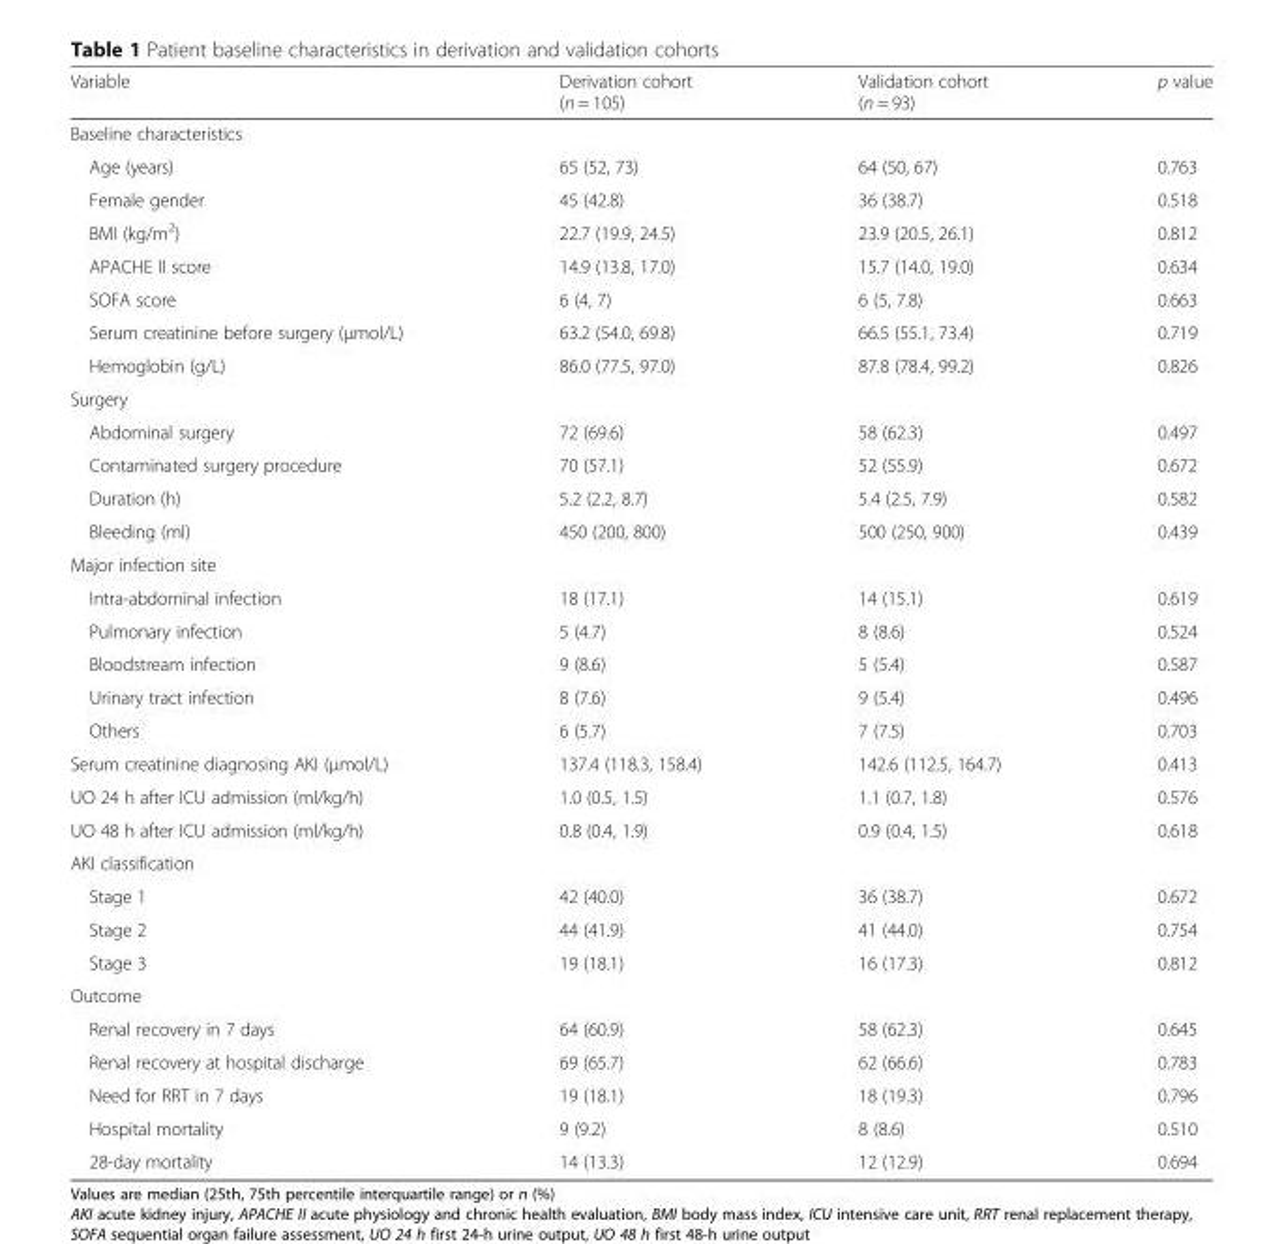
<table><thead><tr><td>Variable</td><td>Derivation cohort (n = 105)</td><td>Validation cohort (n = 93)</td><td>p value</td></tr></thead><tbody><tr><td colspan="4">Baseline characteristics</td></tr><tr><td>Age (years)</td><td>65 (52, 73)</td><td>64 (50, 67)</td><td>0.763</td></tr><tr><td>Female gender</td><td>45 (42.8)</td><td>36 (38.7)</td><td>0.518</td></tr><tr><td>BMI (kg/m<sup>2</sup>)</td><td>22.7 (19.9, 24.5)</td><td>23.9 (20.5, 26.1)</td><td>0.812</td></tr><tr><td>APACHE II score</td><td>14.9 (13.8, 17.0)</td><td>15.7 (14.0, 19.0)</td><td>0.634</td></tr><tr><td>SOFA score</td><td>6 (4, 7)</td><td>6 (5, 7.8)</td><td>0.663</td></tr><tr><td>Serum creatinine before surgery (μmol/L)</td><td>63.2 (54.0, 69.8)</td><td>66.5 (55.1, 73.4)</td><td>0.719</td></tr><tr><td>Hemoglobin (g/L)</td><td>86.0 (77.5, 97.0)</td><td>87.8 (78.4, 99.2)</td><td>0.826</td></tr><tr><td colspan="4">Surgery</td></tr><tr><td>Abdominal surgery</td><td>72 (69.6)</td><td>58 (62.3)</td><td>0.497</td></tr><tr><td>Contaminated surgery procedure</td><td>70 (57.1)</td><td>52 (55.9)</td><td>0.672</td></tr><tr><td>Duration (h)</td><td>5.2 (2.2, 8.7)</td><td>5.4 (2.5, 7.9)</td><td>0.582</td></tr><tr><td>Bleeding (ml)</td><td>450 (200, 800)</td><td>500 (250, 900)</td><td>0.439</td></tr><tr><td colspan="4">Major infection site</td></tr><tr><td>Intra-abdominal infection</td><td>18 (17.1)</td><td>14 (15.1)</td><td>0.619</td></tr><tr><td>Pulmonary infection</td><td>5 (4.7)</td><td>8 (8.6)</td><td>0.524</td></tr><tr><td>Bloodstream infection</td><td>9 (8.6)</td><td>5 (5.4)</td><td>0.587</td></tr><tr><td>Urinary tract infection</td><td>8 (7.6)</td><td>9 (5.4)</td><td>0.496</td></tr><tr><td>Others</td><td>6 (5.7)</td><td>7 (7.5)</td><td>0.703</td></tr><tr><td>Serum creatinine diagnosing AKI (μmol/L)</td><td>137.4 (118.3, 158.4)</td><td>142.6 (112.5, 164.7)</td><td>0.413</td></tr><tr><td>UO 24 h after ICU admission (ml/kg/h)</td><td>1.0 (0.5, 1.5)</td><td>1.1 (0.7, 1.8)</td><td>0.576</td></tr><tr><td>UO 48 h after ICU admission (ml/kg/h)</td><td>0.8 (0.4, 1.9)</td><td>0.9 (0.4, 1.5)</td><td>0.618</td></tr><tr><td colspan="4">AKI classification</td></tr><tr><td>Stage 1</td><td>42 (40.0)</td><td>36 (38.7)</td><td>0.672</td></tr><tr><td>Stage 2</td><td>44 (41.9)</td><td>41 (44.0)</td><td>0.754</td></tr><tr><td>Stage 3</td><td>19 (18.1)</td><td>16 (17.3)</td><td>0.812</td></tr><tr><td colspan="4">Outcome</td></tr><tr><td>Renal recovery in 7 days</td><td>64 (60.9)</td><td>58 (62.3)</td><td>0.645</td></tr><tr><td>Renal recovery at hospital discharge</td><td>69 (65.7)</td><td>62 (66.6)</td><td>0.783</td></tr><tr><td>Need for RRT in 7 days</td><td>19 (18.1)</td><td>18 (19.3)</td><td>0.796</td></tr><tr><td>Hospital mortality</td><td>9 (9.2)</td><td>8 (8.6)</td><td>0.510</td></tr><tr><td>28-day mortality</td><td>14 (13.3)</td><td>12 (12.9)</td><td>0.694</td></tr></tbody></table>